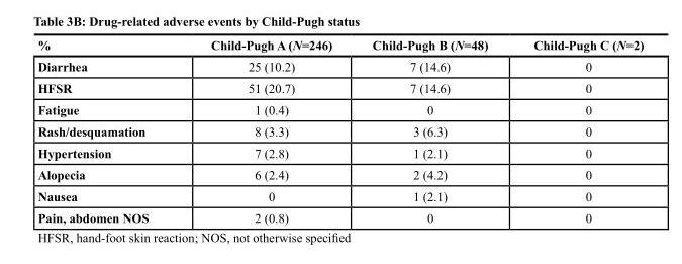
<table><thead><tr><td>%</td><td>Child-Pugh A (N=246)</td><td>Child-Pugh B (N=48)</td><td>Child-Pugh C (N=2)</td></tr></thead><tbody><tr><td>Diarrhea</td><td>25 (10.2)</td><td>7 (14.6)</td><td>0</td></tr><tr><td>HFSR</td><td>51 (20.7)</td><td>7 (14.6)</td><td>0</td></tr><tr><td>Fatigue</td><td>1 (0.4)</td><td>0</td><td>0</td></tr><tr><td>Rash/desquamation</td><td>8 (3.3)</td><td>3 (6.3)</td><td>0</td></tr><tr><td>Hypertension</td><td>7 (2.8)</td><td>1 (2.1)</td><td>0</td></tr><tr><td>Alopecia</td><td>6 (2.4)</td><td>2 (4.2)</td><td>0</td></tr><tr><td>Nausea</td><td>0</td><td>1 (2.1)</td><td>0</td></tr><tr><td>Pain, abdomen NOS</td><td>2 (0.8)</td><td>0</td><td>0</td></tr></tbody></table>